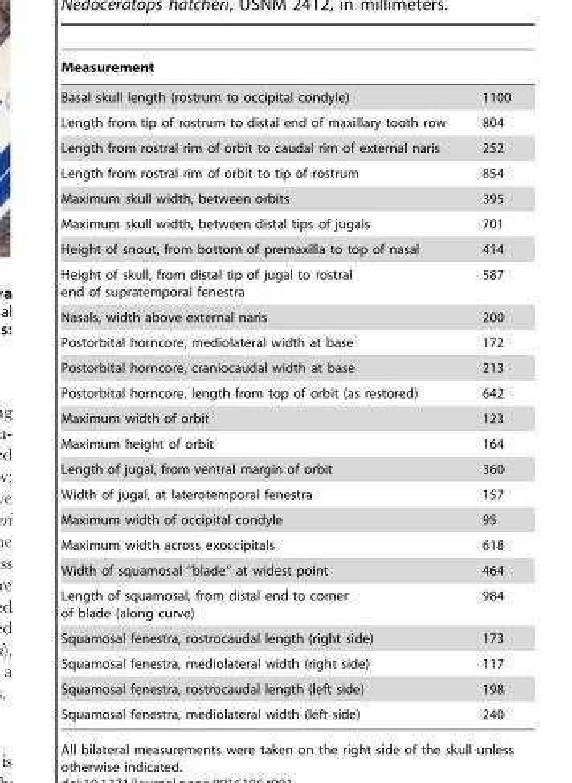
<table><thead><tr><td>Measurement</td><td></td></tr></thead><tbody><tr><td>Basal skull length (rostrum to occipital condyle)</td><td>1100</td></tr><tr><td>Length from tip of rostrum to distal end of maxillary tooth row</td><td>804</td></tr><tr><td>Length from rostral rim of orbit to caudal rim of external naris</td><td>252</td></tr><tr><td>Length from rostral rim of orbit to tip of rostrum</td><td>854</td></tr><tr><td>Maximum skull width, between orbits</td><td>395</td></tr><tr><td>Maximum skull width, between distal tips of jugals</td><td>701</td></tr><tr><td>Height of snout, from bottom of premaxilla to top of nasal</td><td>414</td></tr><tr><td>Height of skull, from distal tip of jugal to rostral end of supratemporal fenestra</td><td>587</td></tr><tr><td>Nasals, width above external naris</td><td>200</td></tr><tr><td>Postorbital horncore, mediolateral width at base</td><td>172</td></tr><tr><td>Postorbital horncore, craniocaudal width at base</td><td>213</td></tr><tr><td>Postorbital horncore, length from top of orbit (as restored)</td><td>642</td></tr><tr><td>Maximum width of orbit</td><td>123</td></tr><tr><td>Maximum height of orbit</td><td>164</td></tr><tr><td>Length of jugal, from ventral margin of orbit</td><td>360</td></tr><tr><td>Width of jugal, at laterotemporal fenestra</td><td>157</td></tr><tr><td>Maximum width of occipital condyle</td><td>95</td></tr><tr><td>Maximum width across exoccipitals</td><td>618</td></tr><tr><td>Width of squamosal ‘‘blade’’ at widest point</td><td>464</td></tr><tr><td>Length of squamosal, from distal end to corner of blade (along curve)</td><td>984</td></tr><tr><td>Squamosal fenestra, rostrocaudal length (right side)</td><td>173</td></tr><tr><td>Squamosal fenestra, mediolateral width (right side)</td><td>117</td></tr><tr><td>Squamosal fenestra, rostrocaudal length (left side)</td><td>198</td></tr><tr><td>Squamosal fenestra, mediolateral width (left side)</td><td>240</td></tr></tbody></table>